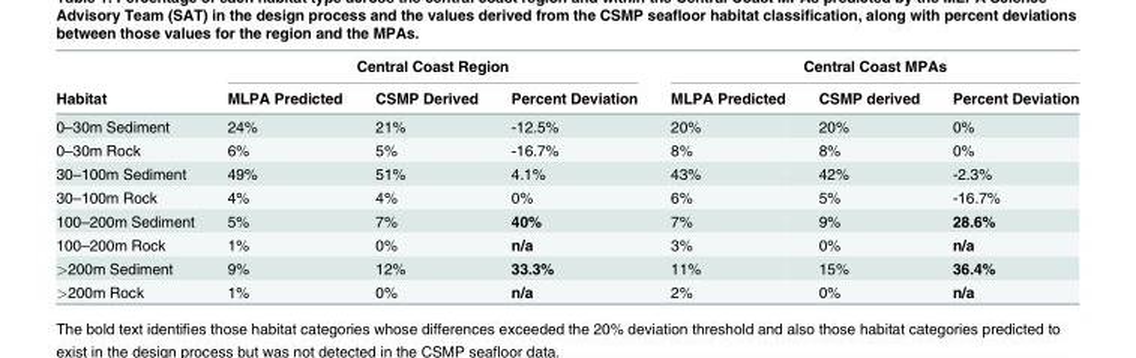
<table><thead><tr><td rowspan="2">Habitat</td><td colspan="3">Central Coast Region</td><td colspan="3">Central Coast MPAs</td></tr><tr><td>MLPA Predicted</td><td>CSMP Derived</td><td>Percent Deviation</td><td>MLPA Predicted</td><td>CSMP derived</td><td>Percent Deviation</td></tr></thead><tbody><tr><td>0–30m Sediment</td><td>24%</td><td>21%</td><td>-12.5%</td><td>20%</td><td>20%</td><td>0%</td></tr><tr><td>0–30m Rock</td><td>6%</td><td>5%</td><td>-16.7%</td><td>8%</td><td>8%</td><td>0%</td></tr><tr><td>30–100m Sediment</td><td>49%</td><td>51%</td><td>4.1%</td><td>43%</td><td>42%</td><td>-2.3%</td></tr><tr><td>30–100m Rock</td><td>4%</td><td>4%</td><td>0%</td><td>6%</td><td>5%</td><td>-16.7%</td></tr><tr><td>100–200m Sediment</td><td>5%</td><td>7%</td><td>40%</td><td>7%</td><td>9%</td><td>28.6%</td></tr><tr><td>100–200m Rock</td><td>1%</td><td>0%</td><td>n/a</td><td>3%</td><td>0%</td><td>n/a</td></tr><tr><td>&gt;200m Sediment</td><td>9%</td><td>12%</td><td>33.3%</td><td>11%</td><td>15%</td><td>36.4%</td></tr><tr><td>&gt;200m Rock</td><td>1%</td><td>0%</td><td>n/a</td><td>2%</td><td>0%</td><td>n/a</td></tr></tbody></table>